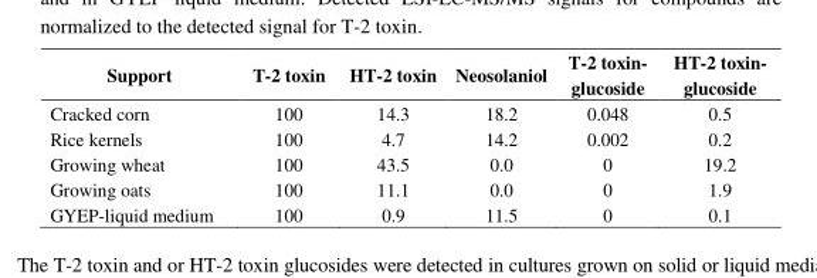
<table><thead><tr><td>Support</td><td>T-2 toxin</td><td>HT-2 toxin</td><td>Neosolaniol</td><td>T-2 toxin- glucoside</td><td>HT-2 toxin- glucoside</td></tr></thead><tbody><tr><td>Cracked corn</td><td>100</td><td>14.3</td><td>18.2</td><td>0.048</td><td>0.5</td></tr><tr><td>Rice kernels</td><td>100</td><td>4.7</td><td>14.2</td><td>0.002</td><td>0.2</td></tr><tr><td>Growing wheat</td><td>100</td><td>43.5</td><td>0.0</td><td>0</td><td>19.2</td></tr><tr><td>Growing oats</td><td>100</td><td>11.1</td><td>0.0</td><td>0</td><td>1.9</td></tr><tr><td>GYEP-liquid medium</td><td>100</td><td>0.9</td><td>11.5</td><td>0</td><td>0.1</td></tr></tbody></table>